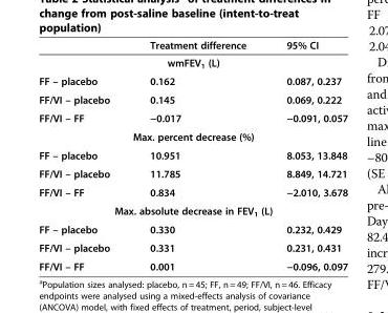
<table><thead><tr><td></td><td>Treatment difference</td><td>95% CI</td></tr></thead><tbody><tr><td colspan="3">wmFEV<sub>1</sub> (L)</td></tr><tr><td>FF – placebo</td><td>0.162</td><td>0.087, 0.237</td></tr><tr><td>FF/VI – placebo</td><td>0.145</td><td>0.069, 0.222</td></tr><tr><td>FF/VI – FF</td><td>−0.017</td><td>−0.091, 0.057</td></tr><tr><td colspan="3">Max. percent decrease (%)</td></tr><tr><td>FF – placebo</td><td>10.951</td><td>8.053, 13.848</td></tr><tr><td>FF/VI – placebo</td><td>11.785</td><td>8.849, 14.721</td></tr><tr><td>FF/VI – FF</td><td>0.834</td><td>−2.010, 3.678</td></tr><tr><td colspan="3">Max. absolute decrease in FEV<sub>1</sub> (L)</td></tr><tr><td>FF – placebo</td><td>0.330</td><td>0.232, 0.429</td></tr><tr><td>FF/VI – placebo</td><td>0.331</td><td>0.231, 0.431</td></tr><tr><td>FF/VI – FF</td><td>0.001</td><td>−0.096, 0.097</td></tr></tbody></table>